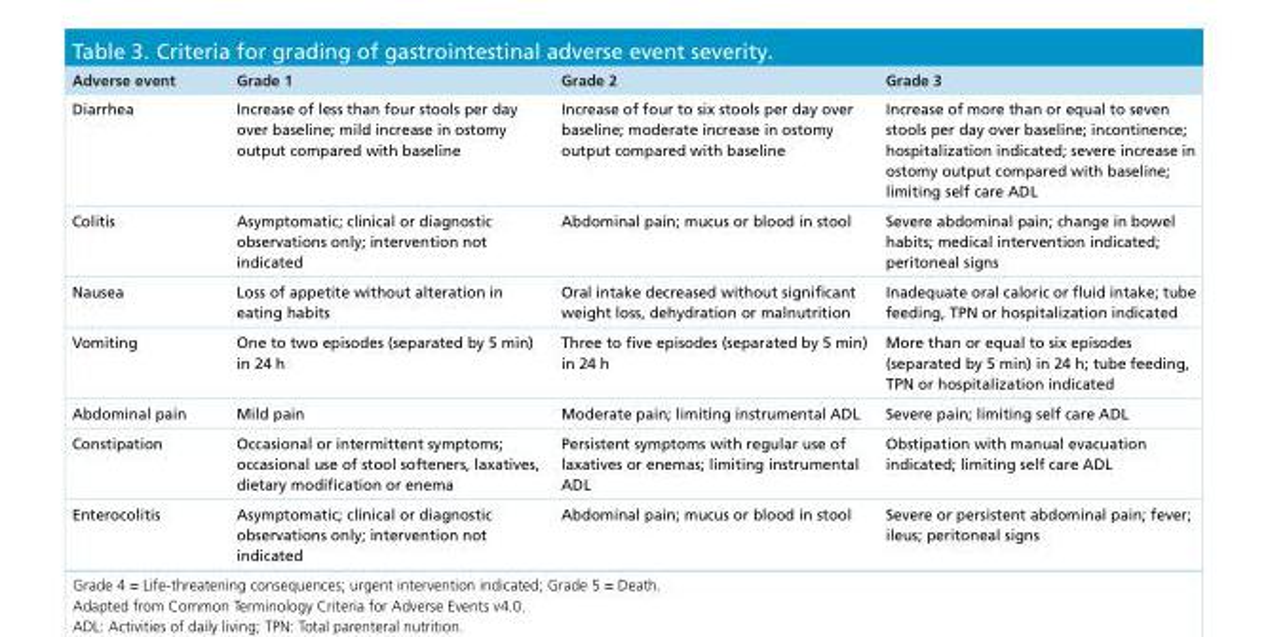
<table><thead><tr><td>Adverse event</td><td>Grade 1</td><td>Grade 2</td><td>Grade 3</td></tr></thead><tbody><tr><td>Diarrhea</td><td>Increase of less than four stools per day over baseline; mild increase in ostomy output compared with baseline</td><td>Increase of four to six stools per day over baseline; moderate increase in ostomy output compared with baseline</td><td>Increase of more than or equal to seven stools per day over baseline; incontinence; hospitalization indicated; severe increase in ostomy output compared with baseline; limiting self care ADL</td></tr><tr><td>Colitis</td><td>Asymptomatic; clinical or diagnostic observations only; intervention not indicated</td><td>Abdominal pain; mucus or blood in stool</td><td>Severe abdominal pain; change in bowel habits; medical intervention indicated; peritoneal signs</td></tr><tr><td>Nausea</td><td>Loss of appetite without alteration in eating habits</td><td>Oral intake decreased without significant weight loss, dehydration or malnutrition</td><td>Inadequate oral caloric or fluid intake; tube feeding, TPN or hospitalization indicated</td></tr><tr><td>Vomiting</td><td>One to two episodes (separated by 5 min) in 24 h</td><td>Three to five episodes (separated by 5 min) in 24 h</td><td>More than or equal to six episodes (separated by 5 min) in 24 h; tube feeding, TPN or hospitalization indicated</td></tr><tr><td>Abdominal pain</td><td>Mild pain</td><td>Moderate pain; limiting instrumental ADL</td><td>Severe pain; limiting self care ADL</td></tr><tr><td>Constipation</td><td>Occasional or intermittent symptoms; occasional use of stool softeners, laxatives, dietary modification or enema</td><td>Persistent symptoms with regular use of laxatives or enemas; limiting instrumental ADL</td><td>Obstipation with manual evacuation indicated; limiting self care ADL</td></tr><tr><td>Enterocolitis</td><td>Asymptomatic; clinical or diagnostic observations only; intervention not indicated</td><td>Abdominal pain; mucus or blood in stool</td><td>Severe or persistent abdominal pain; fever; ileus; peritoneal signs</td></tr></tbody></table>